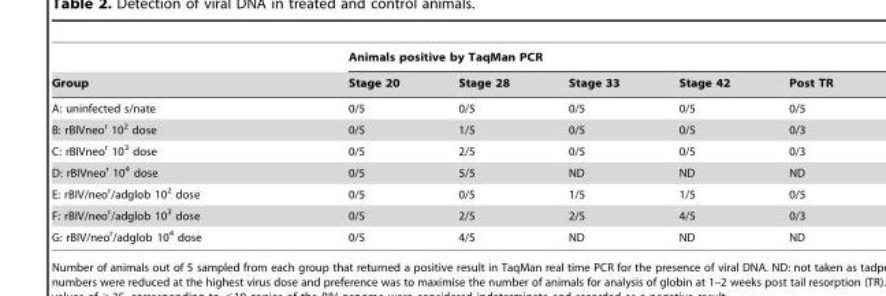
<table><thead><tr><td rowspan="2">Group</td><td colspan="5">Animals positive by TaqMan PCR</td></tr><tr><td>Stage 20</td><td>Stage 28</td><td>Stage 33</td><td>Stage 42</td><td>Post TR</td></tr></thead><tbody><tr><td>A: uninfected s/nate</td><td>0/5</td><td>0/5</td><td>0/5</td><td>0/5</td><td>0/5</td></tr><tr><td>B: rBIVneo<sup>r</sup> 10<sup>2</sup> dose</td><td>0/5</td><td>1/5</td><td>0/5</td><td>0/5</td><td>0/3</td></tr><tr><td>C: rBIVneo<sup>r</sup> 10<sup>3</sup> dose</td><td>0/5</td><td>2/5</td><td>0/5</td><td>0/5</td><td>0/3</td></tr><tr><td>D: rBIVneo<sup>r</sup> 10<sup>4</sup> dose</td><td>0/5</td><td>5/5</td><td>ND</td><td>ND</td><td>ND</td></tr><tr><td>E: rBIV/neo<sup>r</sup>/adglob 10<sup>2</sup> dose</td><td>0/5</td><td>0/5</td><td>1/5</td><td>1/5</td><td>0/5</td></tr><tr><td>F: rBIV/neo<sup>r</sup>/adglob 10<sup>3</sup> dose</td><td>0/5</td><td>2/5</td><td>2/5</td><td>4/5</td><td>0/3</td></tr><tr><td>G: rBIV/neo<sup>r</sup>/adglob 10<sup>4</sup> dose</td><td>0/5</td><td>4/5</td><td>ND</td><td>ND</td><td>ND</td></tr></tbody></table>